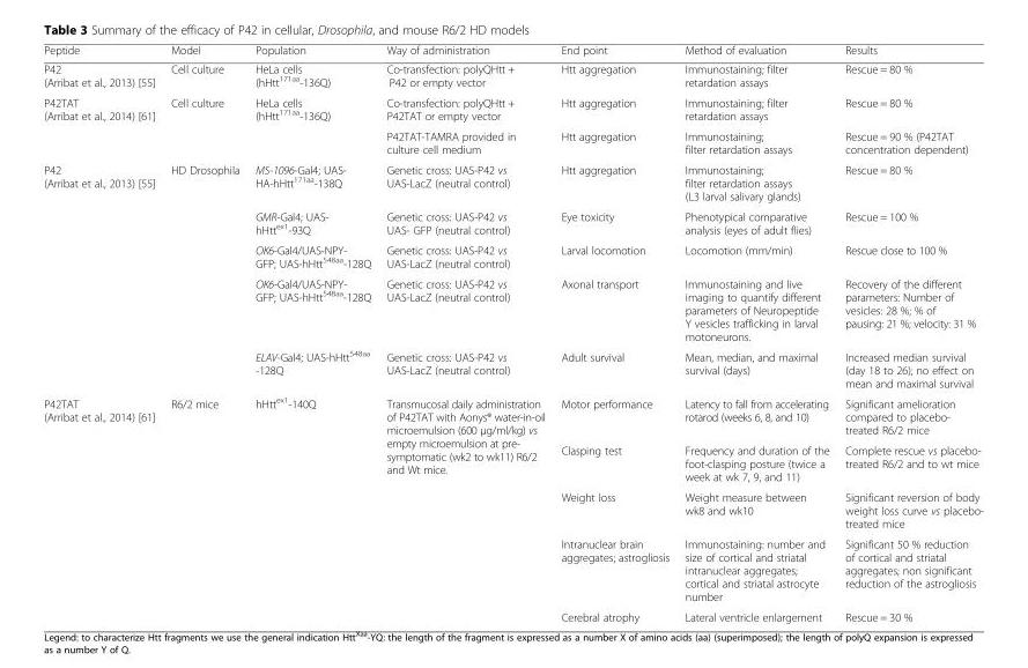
<table><thead><tr><td>Peptide</td><td>Model</td><td>Population</td><td>Way of administration</td><td>End point</td><td>Method of evaluation</td><td>Results</td></tr></thead><tbody><tr><td>P42 (Arribat et al., 2013) [55]</td><td>Cell culture</td><td>HeLa cells (hHtt<sup>171aa</sup>-136Q)</td><td>Co-transfection: polyQHtt + P42 or empty vector</td><td>Htt aggregation</td><td>Immunostaining; filter retardation assays</td><td>Rescue = 80 %</td></tr><tr><td rowspan="2">P42TAT (Arribat et al., 2014) [61]</td><td rowspan="2">Cell culture</td><td rowspan="2">HeLa cells (hHtt<sup>171aa</sup>-136Q)</td><td>Co-transfection: polyQHtt + P42TAT or empty vector</td><td>Htt aggregation</td><td>Immunostaining; filter retardation assays</td><td>Rescue = 80 %</td></tr><tr><td>P42TAT-TAMRA provided in culture cell medium</td><td>Htt aggregation</td><td>Immunostaining; filter retardation assays</td><td>Rescue = 90 % (P42TAT concentration dependent)</td></tr><tr><td rowspan="5">P42 (Arribat et al., 2013) [55]</td><td rowspan="5">HD Drosophila</td><td>MS-1096-Gal4; UAS- HA-hHtt<sup>171aa</sup>-138Q</td><td>Genetic cross: UAS-P42 vs UAS-LacZ (neutral control)</td><td>Htt aggregation</td><td>Immunostaining; filter retardation assays (L3 larval salivary glands)</td><td>Rescue = 80 %</td></tr><tr><td>GMR-Gal4; UAS- hHtt<sup>ex1</sup>-93Q</td><td>Genetic cross: UAS-P42 vs UAS- GFP (neutral control)</td><td>Eye toxicity</td><td>Phenotypical comparative analysis (eyes of adult flies)</td><td>Rescue = 100 %</td></tr><tr><td>OK6-Gal4/UAS-NPY- GFP; UAS-hHtt<sup>548aa</sup>-128Q</td><td>Genetic cross: UAS-P42 vs UAS-LacZ (neutral control)</td><td>Larval locomotion</td><td>Locomotion (mm/min)</td><td>Rescue close to 100 %</td></tr><tr><td>OK6-Gal4/UAS-NPY- GFP; UAS-hHtt<sup>548aa</sup>-128Q</td><td>Genetic cross: UAS-P42 vs UAS-LacZ (neutral control)</td><td>Axonal transport</td><td>Immunostaining and live imaging to quantify different parameters of Neuropeptide Y vesicles trafficking in larval motoneurons.</td><td>Recovery of the different parameters: Number of vesicles: 28 %; % of pausing: 21 %; velocity: 31 %</td></tr><tr><td>ELAV-Gal4; UAS-hHtt<sup>548aa</sup> -128Q</td><td>Genetic cross: UAS-P42 vs UAS-LacZ (neutral control)</td><td>Adult survival</td><td>Mean, median, and maximal survival (days)</td><td>Increased median survival (day 18 to 26); no effect on mean and maximal survival</td></tr><tr><td rowspan="5">P42TAT (Arribat et al., 2014) [61]</td><td rowspan="5">R6/2 mice</td><td rowspan="5">hHtt<sup>ex1</sup>-140Q</td><td rowspan="5">Transmucosal daily administration of P42TAT with Aonys® water-in-oil microemulsion (600 μg/ml/kg) vs empty microemulsion at pre- symptomatic (wk2 to wk11) R6/2 and Wt mice.</td><td>Motor performance</td><td>Latency to fall from accelerating rotarod (weeks 6, 8, and 10)</td><td>Significant amelioration compared to placebo- treated R6/2 mice</td></tr><tr><td>Clasping test</td><td>Frequency and duration of the foot-clasping posture (twice a week at wk 7, 9, and 11)</td><td>Complete rescue vs placebo- treated R6/2 and to wt mice</td></tr><tr><td>Weight loss</td><td>Weight measure between wk8 and wk10</td><td>Significant reversion of body weight loss curve vs placebo- treated mice</td></tr><tr><td>Intranuclear brain aggregates; astrogliosis</td><td>Immunostaining: number and size of cortical and striatal intranuclear aggregates; cortical and striatal astrocyte number</td><td>Significant 50 % reduction of cortical and striatal aggregates; non significant reduction of the astrogliosis</td></tr><tr><td>Cerebral atrophy</td><td>Lateral ventricle enlargement</td><td>Rescue = 30 %</td></tr></tbody></table>